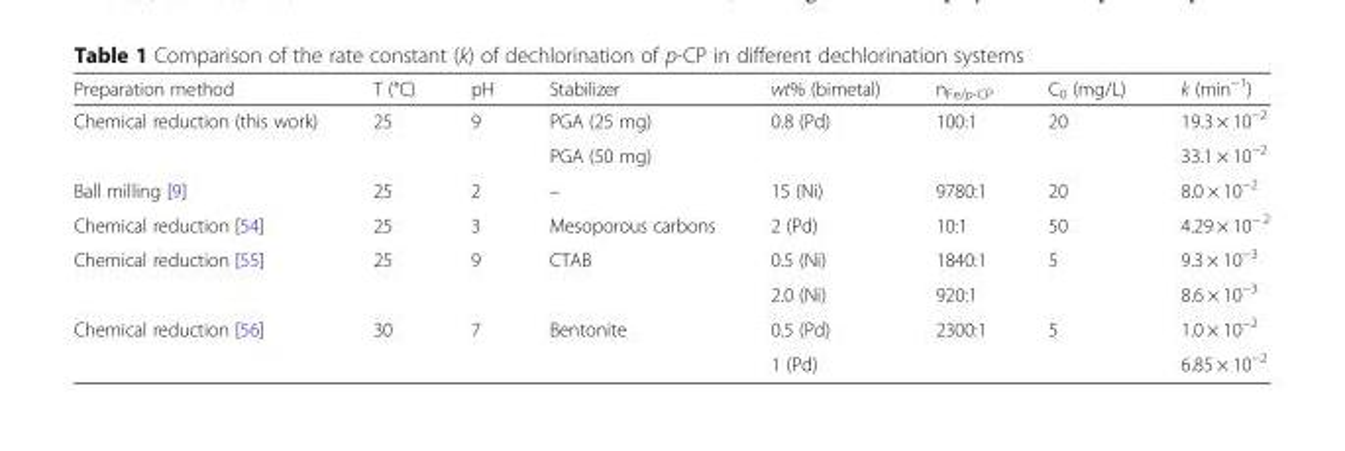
<table><thead><tr><td>Preparation method</td><td>T (°C)</td><td>pH</td><td>Stabilizer</td><td>wt% (bimetal)</td><td>n<sub>Fe/p-CP</sub></td><td>C<sub>0</sub> (mg/L)</td><td>k (min<sup>−1</sup>)</td></tr></thead><tbody><tr><td rowspan="2">Chemical reduction (this work)</td><td rowspan="2">25</td><td rowspan="2">9</td><td>PGA (25 mg)</td><td rowspan="2">0.8 (Pd)</td><td rowspan="2">100:1</td><td rowspan="2">20</td><td>19.3 × 10<sup>−2</sup></td></tr><tr><td>PGA (50 mg)</td><td>33.1 × 10<sup>−2</sup></td></tr><tr><td>Ball milling [9]</td><td>25</td><td>2</td><td>–</td><td>15 (Ni)</td><td>9780:1</td><td>20</td><td>8.0 × 10<sup>−2</sup></td></tr><tr><td>Chemical reduction [54]</td><td>25</td><td>3</td><td>Mesoporous carbons</td><td>2 (Pd)</td><td>10:1</td><td>50</td><td>4.29 × 10<sup>− 2</sup></td></tr><tr><td rowspan="2">Chemical reduction [55]</td><td rowspan="2">25</td><td rowspan="2">9</td><td rowspan="2">CTAB</td><td>0.5 (Ni)</td><td>1840:1</td><td rowspan="2">5</td><td>9.3 × 10<sup>−3</sup></td></tr><tr><td>2.0 (Ni)</td><td>920:1</td><td>8.6 × 10<sup>−3</sup></td></tr><tr><td rowspan="2">Chemical reduction [56]</td><td rowspan="2">30</td><td rowspan="2">7</td><td rowspan="2">Bentonite</td><td>0.5 (Pd)</td><td rowspan="2">2300:1</td><td rowspan="2">5</td><td>1.0 × 10<sup>−2</sup></td></tr><tr><td>1 (Pd)</td><td>6.85 × 10<sup>−2</sup></td></tr></tbody></table>